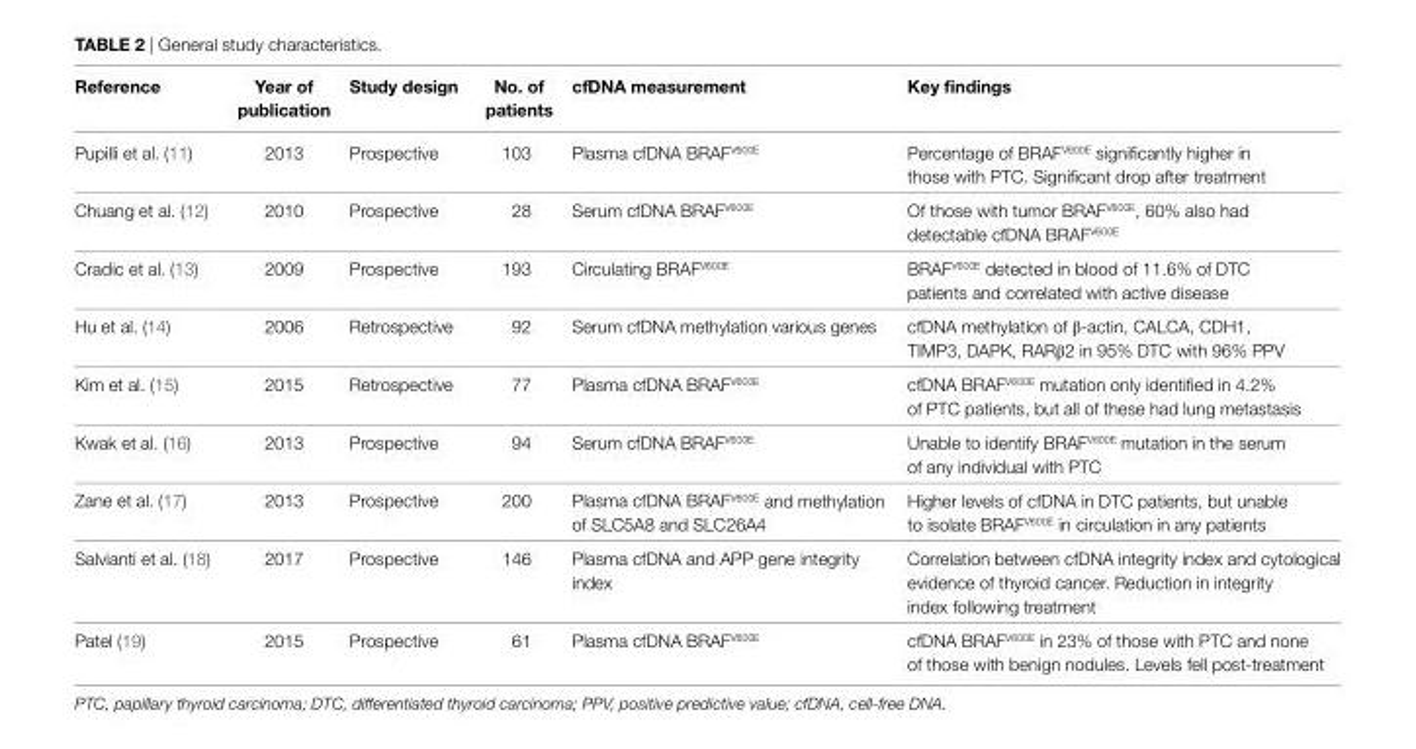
<table><thead><tr><td>Reference</td><td>year of publication</td><td>Study design</td><td>No. of patients</td><td>cfDNa measurement</td><td>Key findings</td></tr></thead><tbody><tr><td>Pupilli et al. (11)</td><td>2013</td><td>Prospective</td><td>103</td><td>Plasma cfDNA BRAF<sup>V600E</sup></td><td>Percentage of BRAF<sup>V600E</sup> significantly higher in those with PTC. Significant drop after treatment</td></tr><tr><td>Chuang et al. (12)</td><td>2010</td><td>Prospective</td><td>28</td><td>Serum cfDNA BRAF<sup>V600E</sup></td><td>Of those with tumor BRAF<sup>V600E</sup>, 60% also had detectable cfDNA BRAF<sup>V600E</sup></td></tr><tr><td>Cradic et al. (13)</td><td>2009</td><td>Prospective</td><td>193</td><td>Circulating BRAF<sup>V600E</sup></td><td>BRAF<sup>V600E</sup> detected in blood of 11.6% of DTC patients and correlated with active disease</td></tr><tr><td>Hu et al. (14)</td><td>2006</td><td>Retrospective</td><td>92</td><td>Serum cfDNA methylation various genes</td><td>cfDNA methylation of β-actin, CALCA, CDH1, TIMP3, DAPK, RARβ2 in 95% DTC with 96% PPV</td></tr><tr><td>Kim et al. (15)</td><td>2015</td><td>Retrospective</td><td>77</td><td>Plasma cfDNA BRAF<sup>V600E</sup></td><td>cfDNA BRAF<sup>V600E</sup> mutation only identified in 4.2% of PTC patients, but all of these had lung metastasis</td></tr><tr><td>Kwak et al. (16)</td><td>2013</td><td>Prospective</td><td>94</td><td>Serum cfDNA BRAF<sup>V600E</sup></td><td>Unable to identify BRAF<sup>V600E</sup> mutation in the serum of any individual with PTC</td></tr><tr><td>Zane et al. (17)</td><td>2013</td><td>Prospective</td><td>200</td><td>Plasma cfDNA BRAF<sup>V600E</sup> and methylation of SLC5A8 and SLC26A4</td><td>Higher levels of cfDNA in DTC patients, but unable to isolate BRAF<sup>V600E</sup> in circulation in any patients</td></tr><tr><td>Salvianti et al. (18)</td><td>2017</td><td>Prospective</td><td>146</td><td>Plasma cfDNA and APP gene integrity index</td><td>Correlation between cfDNA integrity index and cytological evidence of thyroid cancer. Reduction in integrity index following treatment</td></tr><tr><td>Patel (19)</td><td>2015</td><td>Prospective</td><td>61</td><td>Plasma cfDNA BRAF<sup>V600E</sup></td><td>cfDNA BRAF<sup>V600E</sup> in 23% of those with PTC and none of those with benign nodules. Levels fell post-treatment</td></tr></tbody></table>